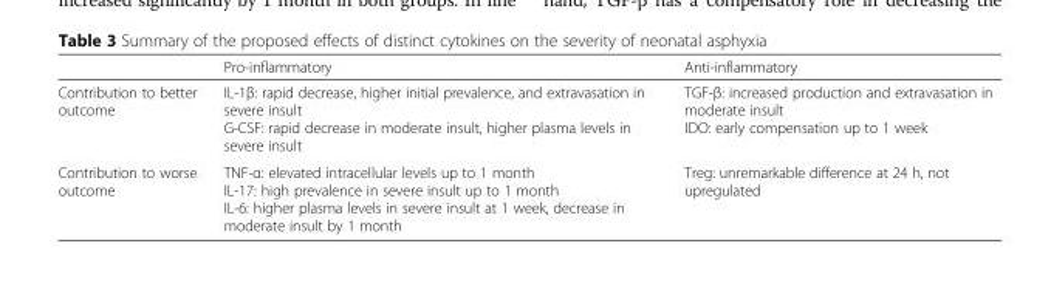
<table><thead><tr><td></td><td>Pro-inflammatory</td><td>Anti-inflammatory</td></tr></thead><tbody><tr><td>Contribution to better outcome</td><td>IL-1β: rapid decrease, higher initial prevalence, and extravasation in severe insult G-CSF: rapid decrease in moderate insult, higher plasma levels in severe insult</td><td>TGF-β: increased production and extravasation in moderate insult IDO: early compensation up to 1 week</td></tr><tr><td>Contribution to worse outcome</td><td>TNF-α: elevated intracellular levels up to 1 month IL-17: high prevalence in severe insult up to 1 month IL-6: higher plasma levels in severe insult at 1 week, decrease in moderate insult by 1 month</td><td>Treg: unremarkable difference at 24 h, not upregulated</td></tr></tbody></table>